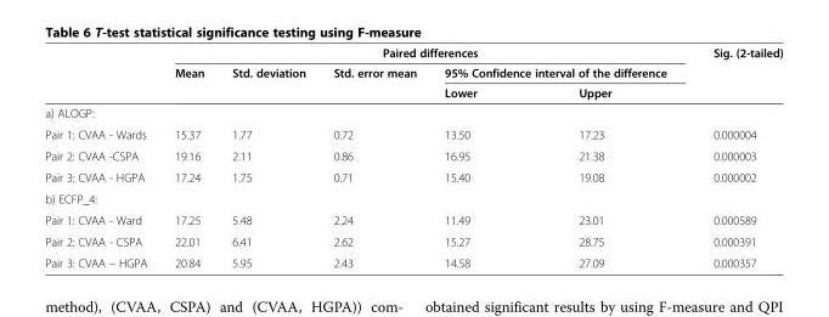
<table><thead><tr><td rowspan="3"></td><td colspan="5">Paired differences</td><td rowspan="3">Sig. (2-tailed)</td></tr><tr><td rowspan="2">Mean</td><td rowspan="2">Std. deviation</td><td rowspan="2">Std. error mean</td><td colspan="2">95% Confidence interval of the difference</td></tr><tr><td>Lower</td><td>Upper</td></tr></thead><tbody><tr><td colspan="7">a) ALOGP:</td></tr><tr><td>Pair 1: CVAA - Wards</td><td>15.37</td><td>1.77</td><td>0.72</td><td>13.50</td><td>17.23</td><td>0.000004</td></tr><tr><td>Pair 2: CVAA -CSPA</td><td>19.16</td><td>2.11</td><td>0.86</td><td>16.95</td><td>21.38</td><td>0.000003</td></tr><tr><td>Pair 3: CVAA - HGPA</td><td>17.24</td><td>1.75</td><td>0.71</td><td>15.40</td><td>19.08</td><td>0.000002</td></tr><tr><td colspan="7">b) ECFP_4:</td></tr><tr><td>Pair 1: CVAA - Ward</td><td>17.25</td><td>5.48</td><td>2.24</td><td>11.49</td><td>23.01</td><td>0.000589</td></tr><tr><td>Pair 2: CVAA - CSPA</td><td>22.01</td><td>6.41</td><td>2.62</td><td>15.27</td><td>28.75</td><td>0.000391</td></tr><tr><td>Pair 3: CVAA – HGPA</td><td>20.84</td><td>5.95</td><td>2.43</td><td>14.58</td><td>27.09</td><td>0.000357</td></tr></tbody></table>